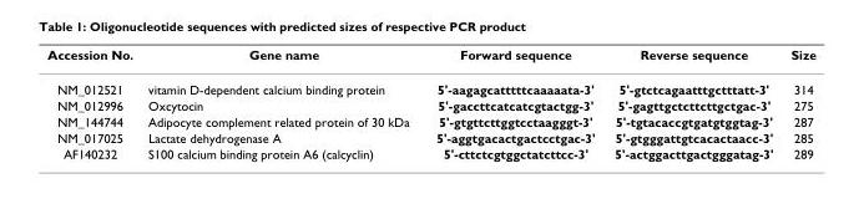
<table><thead><tr><td>Accession No.</td><td>Gene name</td><td>Forward sequence</td><td>Reverse sequence</td><td>Size</td></tr></thead><tbody><tr><td>NM_012521</td><td>vitamin D-dependent calcium binding protein</td><td>5&#x27;-aagagcatttttcaaaaata-3&#x27;</td><td>5&#x27;-gtctcagaatttgctttatt-3&#x27;</td><td>314</td></tr><tr><td>NM_012996</td><td>Oxcytocin</td><td>5&#x27;-gaccttcatcatcgtactgg-3&#x27;</td><td>5&#x27;-gagttgctcttcttgctgac-3&#x27;</td><td>275</td></tr><tr><td>NM_144744</td><td>Adipocyte complement related protein of 30 kDa</td><td>5&#x27;-gtgttcttggtcctaagggt-3&#x27;</td><td>5&#x27;-tgtacaccgtgatgtggtag-3&#x27;</td><td>287</td></tr><tr><td>NM_017025</td><td>Lactate dehydrogenase A</td><td>5&#x27;-aggtgacactgactcctgac-3&#x27;</td><td>5&#x27;-gtgggattgtcacactaacc-3&#x27;</td><td>285</td></tr><tr><td>AF140232</td><td>S100 calcium binding protein A6 (calcyclin)</td><td>5&#x27;-cttctcgtggctatcttcc-3&#x27;</td><td>5&#x27;-actggacttgactgggatag-3&#x27;</td><td>289</td></tr></tbody></table>